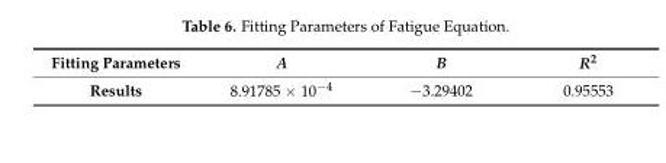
<table><thead><tr><td>Fitting Parameters</td><td>A</td><td>B</td><td>R<sup>2</sup></td></tr></thead><tbody><tr><td>Results</td><td>8.91785 × 10<sup>−4</sup></td><td>−3.29402</td><td>0.95553</td></tr></tbody></table>